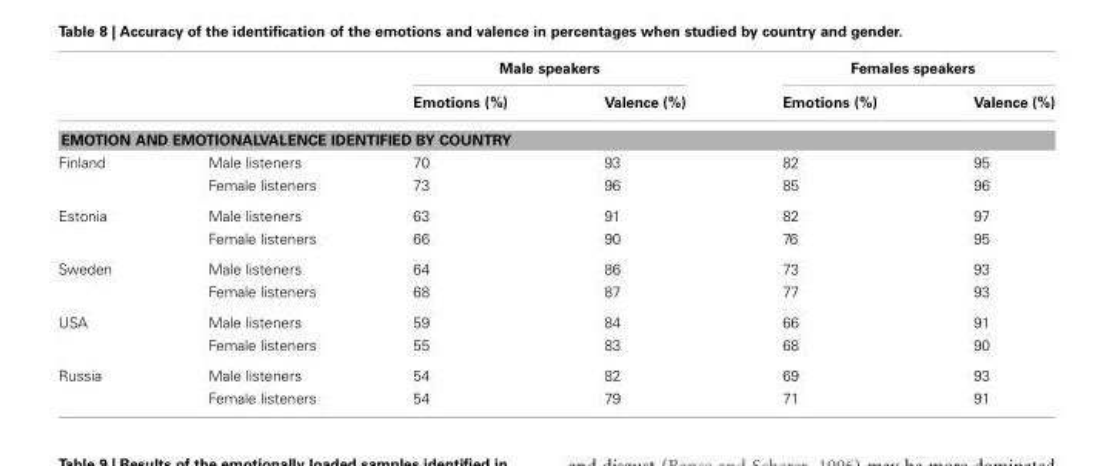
<table><thead><tr><td rowspan="2"></td><td rowspan="2"></td><td colspan="2">Male speakers</td><td colspan="2">Females speakers</td></tr><tr><td>Emotions (%)</td><td>Valence (%)</td><td>Emotions (%)</td><td>Valence (%)</td></tr></thead><tbody><tr><td colspan="6">EMOTION AND EMOTIONALVALENCE IDENTIFIED BY COUNTRY</td></tr><tr><td rowspan="2">Finland</td><td>Male listeners</td><td>70</td><td>93</td><td>82</td><td>95</td></tr><tr><td>Female listeners</td><td>73</td><td>96</td><td>85</td><td>96</td></tr><tr><td rowspan="2">Estonia</td><td>Male listeners</td><td>63</td><td>91</td><td>82</td><td>97</td></tr><tr><td>Female listeners</td><td>66</td><td>90</td><td>76</td><td>95</td></tr><tr><td rowspan="2">Sweden</td><td>Male listeners</td><td>64</td><td>86</td><td>73</td><td>93</td></tr><tr><td>Female listeners</td><td>68</td><td>87</td><td>77</td><td>93</td></tr><tr><td rowspan="2">USA</td><td>Male listeners</td><td>59</td><td>84</td><td>66</td><td>91</td></tr><tr><td>Female listeners</td><td>55</td><td>83</td><td>68</td><td>90</td></tr><tr><td rowspan="2">Russia</td><td>Male listeners</td><td>54</td><td>82</td><td>69</td><td>93</td></tr><tr><td>Female listeners</td><td>54</td><td>79</td><td>71</td><td>91</td></tr></tbody></table>